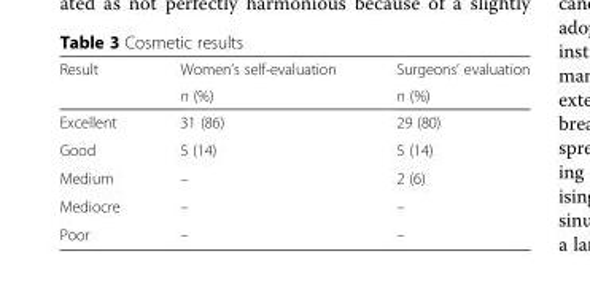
<table><thead><tr><td rowspan="2">Result</td><td rowspan="2">Women’s self-evaluation n (%)</td><td rowspan="2">Surgeons’ evaluation n (%)</td></tr><tr></tr></thead><tbody><tr><td>Excellent</td><td>31 (86)</td><td>29 (80)</td></tr><tr><td>Good</td><td>5 (14)</td><td>5 (14)</td></tr><tr><td>Medium</td><td>–</td><td>2 (6)</td></tr><tr><td>Mediocre</td><td>–</td><td>–</td></tr><tr><td>Poor</td><td>–</td><td>–</td></tr></tbody></table>